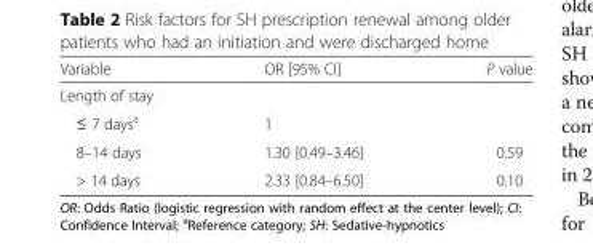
<table><thead><tr><td>Variable</td><td>OR [95% CI]</td><td>P value</td></tr></thead><tbody><tr><td colspan="3">Length of stay</td></tr><tr><td>≤ 7 days<sup>a</sup></td><td>1</td><td></td></tr><tr><td>8–14 days</td><td>1.30 [0.49–3.46]</td><td>0.59</td></tr><tr><td>&gt; 14 days</td><td>2.33 [0.84–6.50]</td><td>0.10</td></tr></tbody></table>